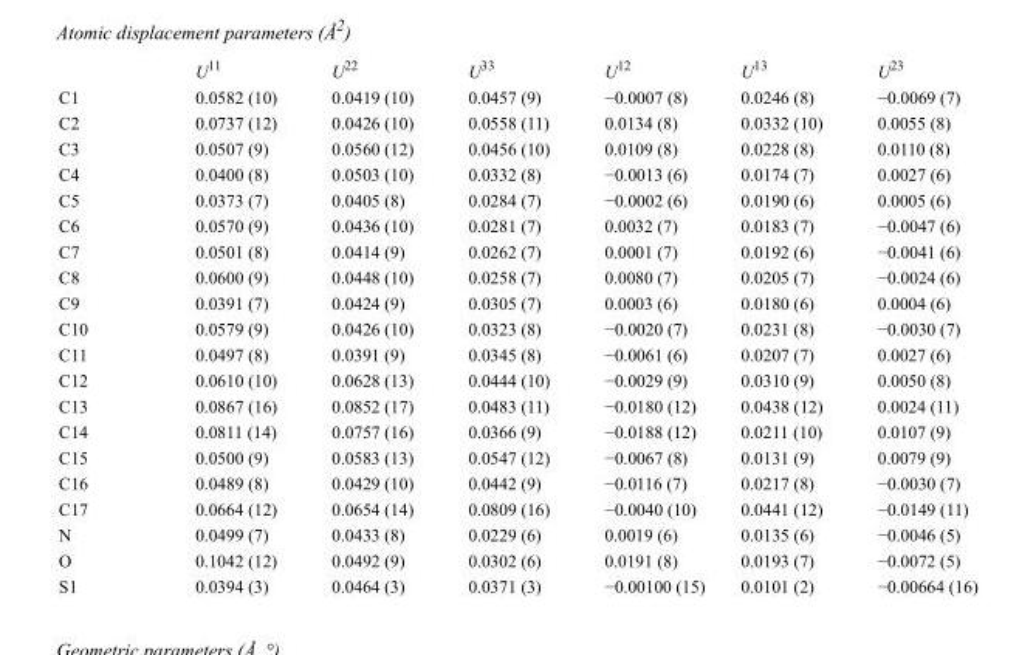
<table><thead><tr><td></td><td>U<sup>11</sup></td><td>U<sup>22</sup></td><td>U<sup>33</sup></td><td>U<sup>12</sup></td><td>U<sup>13</sup></td><td>U<sup>23</sup></td></tr></thead><tbody><tr><td>C1</td><td>0.0582 (10)</td><td>0.0419 (10)</td><td>0.0457 (9)</td><td>−0.0007 (8)</td><td>0.0246 (8)</td><td>−0.0069 (7)</td></tr><tr><td>C2</td><td>0.0737 (12)</td><td>0.0426 (10)</td><td>0.0558 (11)</td><td>0.0134 (8)</td><td>0.0332 (10)</td><td>0.0055 (8)</td></tr><tr><td>C3</td><td>0.0507 (9)</td><td>0.0560 (12)</td><td>0.0456 (10)</td><td>0.0109 (8)</td><td>0.0228 (8)</td><td>0.0110 (8)</td></tr><tr><td>C4</td><td>0.0400 (8)</td><td>0.0503 (10)</td><td>0.0332 (8)</td><td>−0.0013 (6)</td><td>0.0174 (7)</td><td>0.0027 (6)</td></tr><tr><td>C5</td><td>0.0373 (7)</td><td>0.0405 (8)</td><td>0.0284 (7)</td><td>−0.0002 (6)</td><td>0.0190 (6)</td><td>0.0005 (6)</td></tr><tr><td>C6</td><td>0.0570 (9)</td><td>0.0436 (10)</td><td>0.0281 (7)</td><td>0.0032 (7)</td><td>0.0183 (7)</td><td>−0.0047 (6)</td></tr><tr><td>C7</td><td>0.0501 (8)</td><td>0.0414 (9)</td><td>0.0262 (7)</td><td>0.0001 (7)</td><td>0.0192 (6)</td><td>−0.0041 (6)</td></tr><tr><td>C8</td><td>0.0600 (9)</td><td>0.0448 (10)</td><td>0.0258 (7)</td><td>0.0080 (7)</td><td>0.0205 (7)</td><td>−0.0024 (6)</td></tr><tr><td>C9</td><td>0.0391 (7)</td><td>0.0424 (9)</td><td>0.0305 (7)</td><td>0.0003 (6)</td><td>0.0180 (6)</td><td>0.0004 (6)</td></tr><tr><td>C10</td><td>0.0579 (9)</td><td>0.0426 (10)</td><td>0.0323 (8)</td><td>−0.0020 (7)</td><td>0.0231 (8)</td><td>−0.0030 (7)</td></tr><tr><td>C11</td><td>0.0497 (8)</td><td>0.0391 (9)</td><td>0.0345 (8)</td><td>−0.0061 (6)</td><td>0.0207 (7)</td><td>0.0027 (6)</td></tr><tr><td>C12</td><td>0.0610 (10)</td><td>0.0628 (13)</td><td>0.0444 (10)</td><td>−0.0029 (9)</td><td>0.0310 (9)</td><td>0.0050 (8)</td></tr><tr><td>C13</td><td>0.0867 (16)</td><td>0.0852 (17)</td><td>0.0483 (11)</td><td>−0.0180 (12)</td><td>0.0438 (12)</td><td>0.0024 (11)</td></tr><tr><td>C14</td><td>0.0811 (14)</td><td>0.0757 (16)</td><td>0.0366 (9)</td><td>−0.0188 (12)</td><td>0.0211 (10)</td><td>0.0107 (9)</td></tr><tr><td>C15</td><td>0.0500 (9)</td><td>0.0583 (13)</td><td>0.0547 (12)</td><td>−0.0067 (8)</td><td>0.0131 (9)</td><td>0.0079 (9)</td></tr><tr><td>C16</td><td>0.0489 (8)</td><td>0.0429 (10)</td><td>0.0442 (9)</td><td>−0.0116 (7)</td><td>0.0217 (8)</td><td>−0.0030 (7)</td></tr><tr><td>C17</td><td>0.0664 (12)</td><td>0.0654 (14)</td><td>0.0809 (16)</td><td>−0.0040 (10)</td><td>0.0441 (12)</td><td>−0.0149 (11)</td></tr><tr><td>N</td><td>0.0499 (7)</td><td>0.0433 (8)</td><td>0.0229 (6)</td><td>0.0019 (6)</td><td>0.0135 (6)</td><td>−0.0046 (5)</td></tr><tr><td>O</td><td>0.1042 (12)</td><td>0.0492 (9)</td><td>0.0302 (6)</td><td>0.0191 (8)</td><td>0.0193 (7)</td><td>−0.0072 (5)</td></tr><tr><td>S1</td><td>0.0394 (3)</td><td>0.0464 (3)</td><td>0.0371 (3)</td><td>−0.00100 (15)</td><td>0.0101 (2)</td><td>−0.00664 (16)</td></tr></tbody></table>